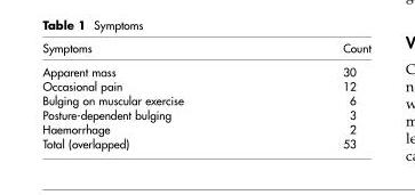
<table><thead><tr><td>Symptoms</td><td>Count</td></tr></thead><tbody><tr><td>Apparent mass</td><td>30</td></tr><tr><td>Occasional pain</td><td>12</td></tr><tr><td>Bulging on muscular exercise</td><td>6</td></tr><tr><td>Posture-dependent bulging</td><td>3</td></tr><tr><td>Haemorrhage</td><td>2</td></tr><tr><td>Total (overlapped)</td><td>53</td></tr></tbody></table>